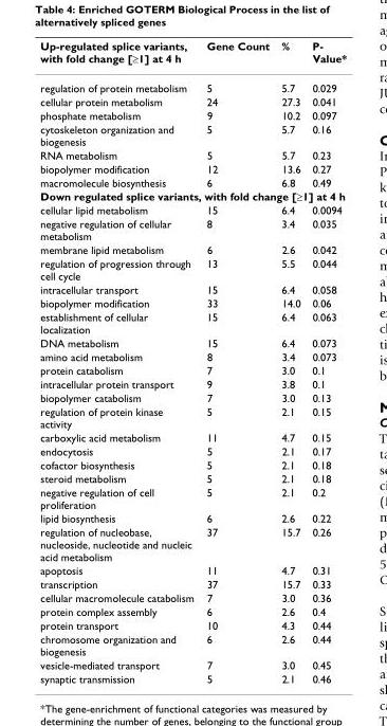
<table><thead><tr><td>Up-regulated splice variants, with fold change [≥1] at 4 h</td><td>Gene Count</td><td>%</td><td>P- Value*</td></tr></thead><tbody><tr><td>regulation of protein metabolism</td><td>5</td><td>5.7</td><td>0.029</td></tr><tr><td>cellular protein metabolism</td><td>24</td><td>27.3</td><td>0.041</td></tr><tr><td>phosphate metabolism</td><td>9</td><td>10.2</td><td>0.097</td></tr><tr><td>cytoskeleton organization and biogenesis</td><td>5</td><td>5.7</td><td>0.16</td></tr><tr><td>RNA metabolism</td><td>5</td><td>5.7</td><td>0.23</td></tr><tr><td>biopolymer modification</td><td>12</td><td>13.6</td><td>0.27</td></tr><tr><td>macromolecule biosynthesis</td><td>6</td><td>6.8</td><td>0.49</td></tr><tr><td colspan="4">Down regulated splice variants, with fold change [≥1] at 4 h</td></tr><tr><td>cellular lipid metabolism</td><td>15</td><td>6.4</td><td>0.0094</td></tr><tr><td>negative regulation of cellular metabolism</td><td>8</td><td>3.4</td><td>0.035</td></tr><tr><td>membrane lipid metabolism</td><td>6</td><td>2.6</td><td>0.042</td></tr><tr><td>regulation of progression through cell cycle</td><td>13</td><td>5.5</td><td>0.044</td></tr><tr><td>intracellular transport</td><td>15</td><td>6.4</td><td>0.058</td></tr><tr><td>biopolymer modification</td><td>33</td><td>14.0</td><td>0.06</td></tr><tr><td>establishment of cellular localization</td><td>15</td><td>6.4</td><td>0.063</td></tr><tr><td>DNA metabolism</td><td>15</td><td>6.4</td><td>0.073</td></tr><tr><td>amino acid metabolism</td><td>8</td><td>3.4</td><td>0.073</td></tr><tr><td>protein catabolism</td><td>7</td><td>3.0</td><td>0.1</td></tr><tr><td>intracellular protein transport</td><td>9</td><td>3.8</td><td>0.1</td></tr><tr><td>biopolymer catabolism</td><td>7</td><td>3.0</td><td>0.13</td></tr><tr><td>regulation of protein kinase activity</td><td>5</td><td>2.1</td><td>0.15</td></tr><tr><td>carboxylic acid metabolism</td><td>11</td><td>4.7</td><td>0.15</td></tr><tr><td>endocytosis</td><td>5</td><td>2.1</td><td>0.17</td></tr><tr><td>cofactor biosynthesis</td><td>5</td><td>2.1</td><td>0.18</td></tr><tr><td>steroid metabolism</td><td>5</td><td>2.1</td><td>0.18</td></tr><tr><td>negative regulation of cell proliferation</td><td>5</td><td>2.1</td><td>0.2</td></tr><tr><td>lipid biosynthesis</td><td>6</td><td>2.6</td><td>0.22</td></tr><tr><td>regulation of nucleobase, nucleoside, nucleotide and nucleic acid metabolism</td><td>37</td><td>15.7</td><td>0.26</td></tr><tr><td>apoptosis</td><td>11</td><td>4.7</td><td>0.31</td></tr><tr><td>transcription</td><td>37</td><td>15.7</td><td>0.33</td></tr><tr><td>cellular macromolecule catabolism</td><td>7</td><td>3.0</td><td>0.36</td></tr><tr><td>protein complex assembly</td><td>6</td><td>2.6</td><td>0.4</td></tr><tr><td>protein transport</td><td>10</td><td>4.3</td><td>0.44</td></tr><tr><td>chromosome organization and biogenesis</td><td>6</td><td>2.6</td><td>0.44</td></tr><tr><td>vesicle-mediated transport</td><td>7</td><td>3.0</td><td>0.45</td></tr><tr><td>synaptic transmission</td><td>5</td><td>2.1</td><td>0.46</td></tr></tbody></table>